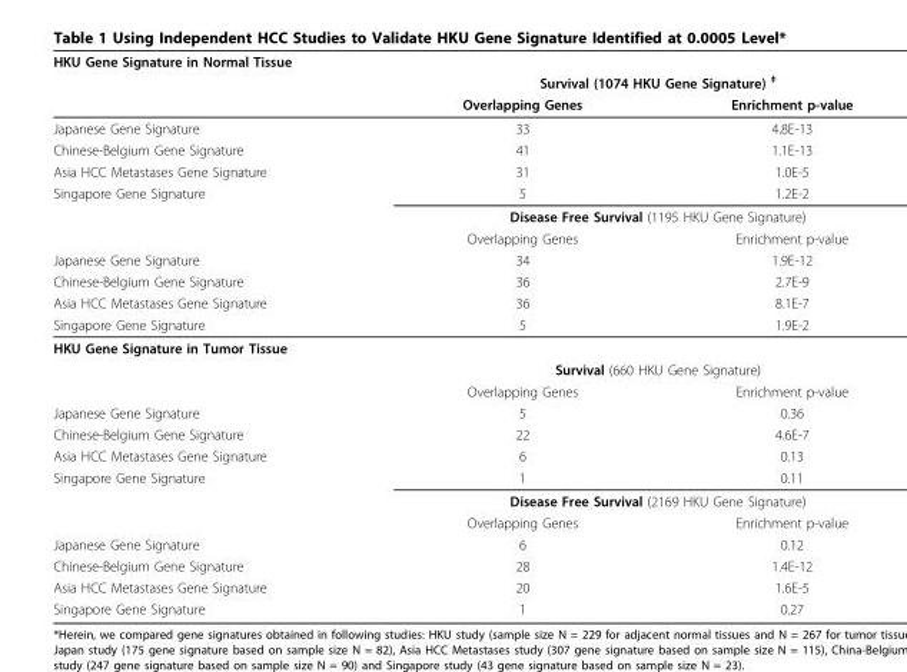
<table><thead><tr><td colspan="3">HKU Gene Signature in Normal Tissue</td></tr><tr><td rowspan="2"></td><td colspan="2">Survival (1074 HKU Gene Signature) <sup>‡</sup></td></tr><tr><td>Overlapping Genes</td><td>Enrichment p-value</td></tr></thead><tbody><tr><td>Japanese Gene Signature</td><td>33</td><td>4.8E-13</td></tr><tr><td>Chinese-Belgium Gene Signature</td><td>41</td><td>1.1E-13</td></tr><tr><td>Asia HCC Metastases Gene Signature</td><td>31</td><td>1.0E-5</td></tr><tr><td rowspan="3">Singapore Gene Signature</td><td>5</td><td>1.2E-2</td></tr><tr><td colspan="2">Disease Free Survival (1195 HKU Gene Signature)</td></tr><tr><td>Overlapping Genes</td><td>Enrichment p-value</td></tr><tr><td>Japanese Gene Signature</td><td>34</td><td>1.9E-12</td></tr><tr><td>Chinese-Belgium Gene Signature</td><td>36</td><td>2.7E-9</td></tr><tr><td>Asia HCC Metastases Gene Signature</td><td>36</td><td>8.1E-7</td></tr><tr><td>Singapore Gene Signature</td><td>5</td><td>1.9E-2</td></tr><tr><td colspan="3">HKU Gene Signature in Tumor Tissue</td></tr><tr><td></td><td colspan="2">Survival (660 HKU Gene Signature)</td></tr><tr><td></td><td>Overlapping Genes</td><td>Enrichment p-value</td></tr><tr><td>Japanese Gene Signature</td><td>5</td><td>0.36</td></tr><tr><td>Chinese-Belgium Gene Signature</td><td>22</td><td>4.6E-7</td></tr><tr><td>Asia HCC Metastases Gene Signature</td><td>6</td><td>0.13</td></tr><tr><td rowspan="3">Singapore Gene Signature</td><td>1</td><td>0.11</td></tr><tr><td colspan="2">Disease Free Survival (2169 HKU Gene Signature)</td></tr><tr><td>Overlapping Genes</td><td>Enrichment p-value</td></tr><tr><td>Japanese Gene Signature</td><td>6</td><td>0.12</td></tr><tr><td>Chinese-Belgium Gene Signature</td><td>28</td><td>1.4E-12</td></tr><tr><td>Asia HCC Metastases Gene Signature</td><td>20</td><td>1.6E-5</td></tr><tr><td>Singapore Gene Signature</td><td>1</td><td>0.27</td></tr></tbody></table>